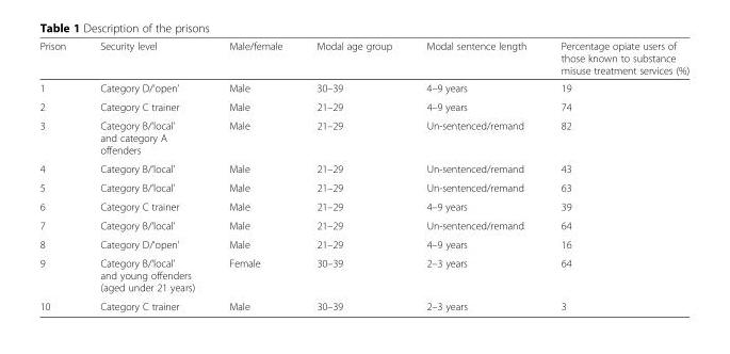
<table><thead><tr><td>Prison</td><td>Security level</td><td>Male/female</td><td>Modal age group</td><td>Modal sentence length</td><td>Percentage opiate users of those known to substance misuse treatment services (%)</td></tr></thead><tbody><tr><td>1</td><td>Category D/‘open’</td><td>Male</td><td>30–39</td><td>4–9 years</td><td>19</td></tr><tr><td>2</td><td>Category C trainer</td><td>Male</td><td>21–29</td><td>4–9 years</td><td>74</td></tr><tr><td>3</td><td>Category B/‘local’ and category A offenders</td><td>Male</td><td>21–29</td><td>Un-sentenced/remand</td><td>82</td></tr><tr><td>4</td><td>Category B/‘local’</td><td>Male</td><td>21–29</td><td>Un-sentenced/remand</td><td>43</td></tr><tr><td>5</td><td>Category B/‘local’</td><td>Male</td><td>21–29</td><td>Un-sentenced/remand</td><td>63</td></tr><tr><td>6</td><td>Category C trainer</td><td>Male</td><td>21–29</td><td>4–9 years</td><td>39</td></tr><tr><td>7</td><td>Category B/‘local’</td><td>Male</td><td>21–29</td><td>Un-sentenced/remand</td><td>64</td></tr><tr><td>8</td><td>Category D/‘open’</td><td>Male</td><td>21–29</td><td>4–9 years</td><td>16</td></tr><tr><td>9</td><td>Category B/‘local’ and young offenders (aged under 21 years)</td><td>Female</td><td>30–39</td><td>2–3 years</td><td>64</td></tr><tr><td>10</td><td>Category C trainer</td><td>Male</td><td>30–39</td><td>2–3 years</td><td>3</td></tr></tbody></table>